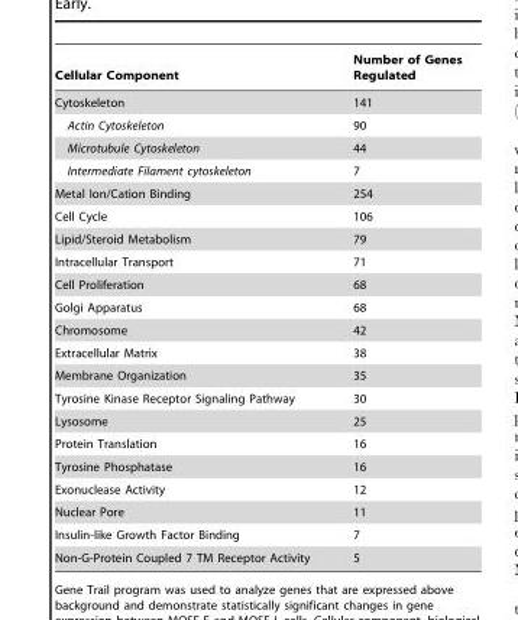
<table><thead><tr><td>Cellular Component</td><td>Number of Genes Regulated</td></tr></thead><tbody><tr><td>Cytoskeleton</td><td>141</td></tr><tr><td>Actin Cytoskeleton</td><td>90</td></tr><tr><td>Microtubule Cytoskeleton</td><td>44</td></tr><tr><td>Intermediate Filament cytoskeleton</td><td>7</td></tr><tr><td>Metal Ion/Cation Binding</td><td>254</td></tr><tr><td>Cell Cycle</td><td>106</td></tr><tr><td>Lipid/Steroid Metabolism</td><td>79</td></tr><tr><td>Intracellular Transport</td><td>71</td></tr><tr><td>Cell Proliferation</td><td>68</td></tr><tr><td>Golgi Apparatus</td><td>68</td></tr><tr><td>Chromosome</td><td>42</td></tr><tr><td>Extracellular Matrix</td><td>38</td></tr><tr><td>Membrane Organization</td><td>35</td></tr><tr><td>Tyrosine Kinase Receptor Signaling Pathway</td><td>30</td></tr><tr><td>Lysosome</td><td>25</td></tr><tr><td>Protein Translation</td><td>16</td></tr><tr><td>Tyrosine Phosphatase</td><td>16</td></tr><tr><td>Exonuclease Activity</td><td>12</td></tr><tr><td>Nuclear Pore</td><td>11</td></tr><tr><td>Insulin-like Growth Factor Binding</td><td>7</td></tr><tr><td>Non-G-Protein Coupled 7 TM Receptor Activity</td><td>5</td></tr></tbody></table>